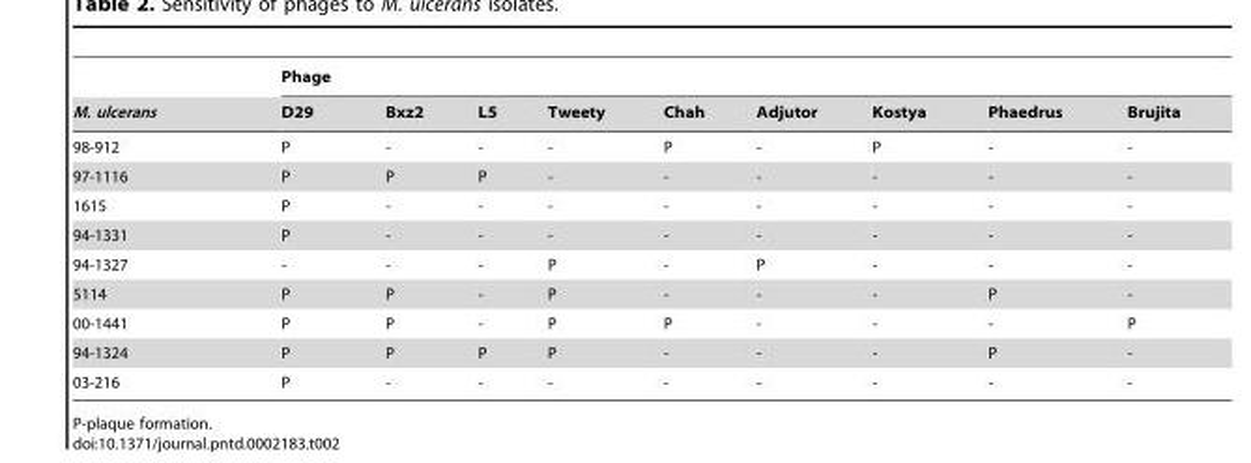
<table><thead><tr><td rowspan="2">M. ulcerans</td><td colspan="9">Phage</td></tr><tr><td>D29</td><td>Bxz2</td><td>L5</td><td>Tweety</td><td>Chah</td><td>Adjutor</td><td>Kostya</td><td>Phaedrus</td><td>Brujita</td></tr></thead><tbody><tr><td>98-912</td><td>P</td><td>-</td><td>-</td><td>-</td><td>P</td><td>-</td><td>P</td><td>-</td><td>-</td></tr><tr><td>97-1116</td><td>P</td><td>P</td><td>P</td><td>-</td><td>-</td><td>-</td><td>-</td><td>-</td><td>-</td></tr><tr><td>1615</td><td>P</td><td>-</td><td>-</td><td>-</td><td>-</td><td>-</td><td>-</td><td>-</td><td>-</td></tr><tr><td>94-1331</td><td>P</td><td>-</td><td>-</td><td>-</td><td>-</td><td>-</td><td>-</td><td>-</td><td>-</td></tr><tr><td>94-1327</td><td>-</td><td>-</td><td>-</td><td>P</td><td>-</td><td>P</td><td>-</td><td>-</td><td>-</td></tr><tr><td>5114</td><td>P</td><td>P</td><td>-</td><td>P</td><td>-</td><td>-</td><td>-</td><td>P</td><td>-</td></tr><tr><td>00-1441</td><td>P</td><td>P</td><td>-</td><td>P</td><td>P</td><td>-</td><td>-</td><td>-</td><td>P</td></tr><tr><td>94-1324</td><td>P</td><td>P</td><td>P</td><td>P</td><td>-</td><td>-</td><td>-</td><td>P</td><td>-</td></tr><tr><td>03-216</td><td>P</td><td>-</td><td>-</td><td>-</td><td>-</td><td>-</td><td>-</td><td>-</td><td>-</td></tr></tbody></table>